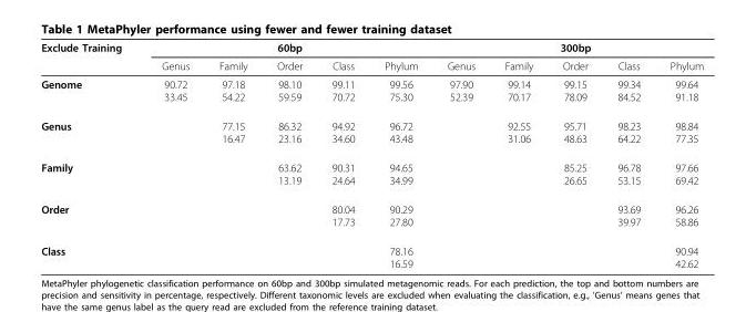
<table><thead><tr><td rowspan="2">Exclude Training</td><td colspan="5">60bp</td><td colspan="5">300bp</td></tr><tr><td>Genus</td><td>Family</td><td>Order</td><td>Class</td><td>Phylum</td><td>Genus</td><td>Family</td><td>Order</td><td>Class</td><td>Phylum</td></tr></thead><tbody><tr><td>Genome</td><td>90.72 33.45</td><td>97.18 54.22</td><td>98.10 59.59</td><td>99.11 70.72</td><td>99.56 75.30</td><td>97.90 52.39</td><td>99.14 70.17</td><td>99.15 78.09</td><td>99.34 84.52</td><td>99.64 91.18</td></tr><tr><td>Genus</td><td></td><td>77.15 16.47</td><td>86.32 23.16</td><td>94.92 34.60</td><td>96.72 43.48</td><td></td><td>92.55 31.06</td><td>95.71 48.63</td><td>98.23 64.22</td><td>98.84 77.35</td></tr><tr><td>Family</td><td></td><td></td><td>63.62 13.19</td><td>90.31 24.64</td><td>94.65 34.99</td><td></td><td></td><td>85.25 26.65</td><td>96.78 53.15</td><td>97.66 69.42</td></tr><tr><td>Order</td><td></td><td></td><td></td><td>80.04 17.73</td><td>90.29 27.80</td><td></td><td></td><td></td><td>93.69 39.97</td><td>96.26 58.86</td></tr><tr><td>Class</td><td></td><td></td><td></td><td></td><td>78.16 16.59</td><td></td><td></td><td></td><td></td><td>90.94 42.62</td></tr></tbody></table>